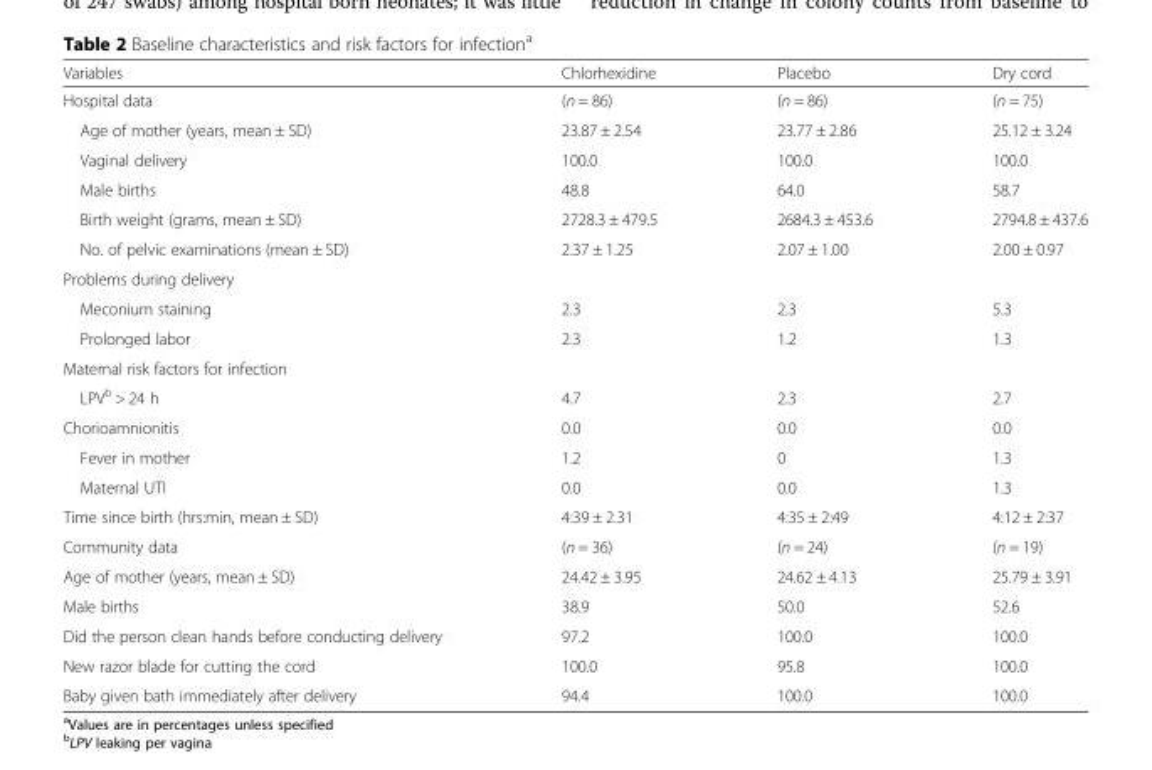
<table><thead><tr><td>Variables</td><td>Chlorhexidine</td><td>Placebo</td><td>Dry cord</td></tr></thead><tbody><tr><td>Hospital data</td><td>(n = 86)</td><td>(n = 86)</td><td>(n = 75)</td></tr><tr><td>Age of mother (years, mean ± SD)</td><td>23.87 ± 2.54</td><td>23.77 ± 2.86</td><td>25.12 ± 3.24</td></tr><tr><td>Vaginal delivery</td><td>100.0</td><td>100.0</td><td>100.0</td></tr><tr><td>Male births</td><td>48.8</td><td>64.0</td><td>58.7</td></tr><tr><td>Birth weight (grams, mean ± SD)</td><td>2728.3 ± 479.5</td><td>2684.3 ± 453.6</td><td>2794.8 ± 437.6</td></tr><tr><td>No. of pelvic examinations (mean ± SD)</td><td>2.37 ± 1.25</td><td>2.07 ± 1.00</td><td>2.00 ± 0.97</td></tr><tr><td colspan="4">Problems during delivery</td></tr><tr><td>Meconium staining</td><td>2.3</td><td>2.3</td><td>5.3</td></tr><tr><td>Prolonged labor</td><td>2.3</td><td>1.2</td><td>1.3</td></tr><tr><td colspan="4">Maternal risk factors for infection</td></tr><tr><td>LPV<sup>b</sup> &gt; 24 h</td><td>4.7</td><td>2.3</td><td>2.7</td></tr><tr><td>Chorioamnionitis</td><td>0.0</td><td>0.0</td><td>0.0</td></tr><tr><td>Fever in mother</td><td>1.2</td><td>0</td><td>1.3</td></tr><tr><td>Maternal UTI</td><td>0.0</td><td>0.0</td><td>1.3</td></tr><tr><td>Time since birth (hrs:min, mean ± SD)</td><td>4:39 ± 2.31</td><td>4:35 ± 2:49</td><td>4:12 ± 2:37</td></tr><tr><td>Community data</td><td>(n = 36)</td><td>(n = 24)</td><td>(n = 19)</td></tr><tr><td>Age of mother (years, mean ± SD)</td><td>24.42 ± 3.95</td><td>24.62 ± 4.13</td><td>25.79 ± 3.91</td></tr><tr><td>Male births</td><td>38.9</td><td>50.0</td><td>52.6</td></tr><tr><td>Did the person clean hands before conducting delivery</td><td>97.2</td><td>100.0</td><td>100.0</td></tr><tr><td>New razor blade for cutting the cord</td><td>100.0</td><td>95.8</td><td>100.0</td></tr><tr><td>Baby given bath immediately after delivery</td><td>94.4</td><td>100.0</td><td>100.0</td></tr></tbody></table>